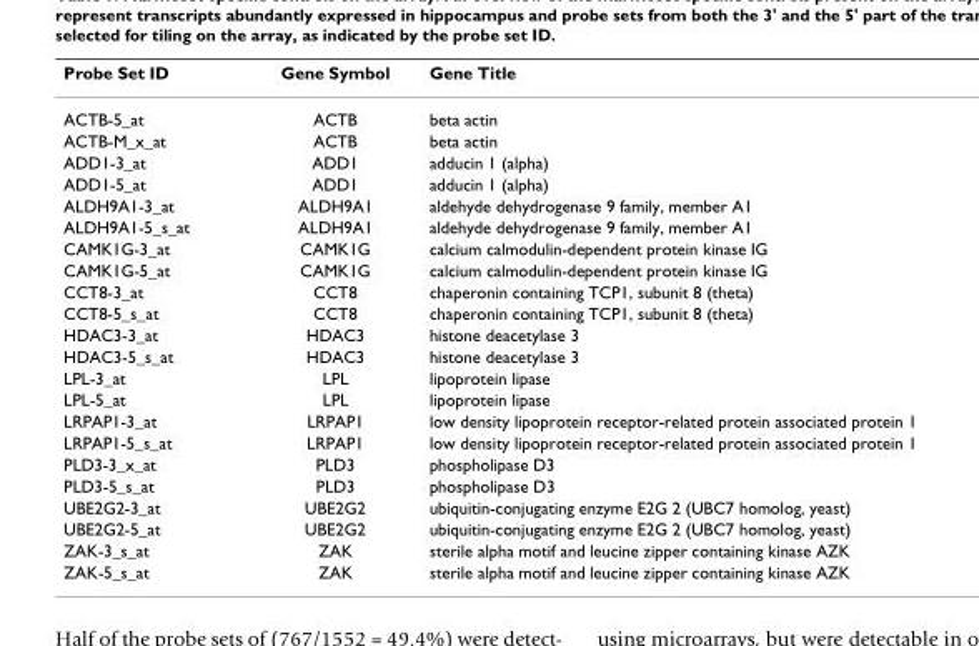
<table><thead><tr><td>Probe Set ID</td><td>Gene Symbol</td><td>Gene Title</td></tr></thead><tbody><tr><td>ACTB-5_at</td><td>ACTB</td><td>beta actin</td></tr><tr><td>ACTB-M_x_at</td><td>ACTB</td><td>beta actin</td></tr><tr><td>ADD1-3_at</td><td>ADD1</td><td>adducin 1 (alpha)</td></tr><tr><td>ADD1-5_at</td><td>ADD1</td><td>adducin 1 (alpha)</td></tr><tr><td>ALDH9A1-3_at</td><td>ALDH9A1</td><td>aldehyde dehydrogenase 9 family, member A1</td></tr><tr><td>ALDH9A1-5_s_at</td><td>ALDH9A1</td><td>aldehyde dehydrogenase 9 family, member A1</td></tr><tr><td>CAMK1G-3_at</td><td>CAMK1G</td><td>calcium calmodulin-dependent protein kinase IG</td></tr><tr><td>CAMK1G-5_at</td><td>CAMK1G</td><td>calcium calmodulin-dependent protein kinase IG</td></tr><tr><td>CCT8-3_at</td><td>CCT8</td><td>chaperonin containing TCP1, subunit 8 (theta)</td></tr><tr><td>CCT8-5_s_at</td><td>CCT8</td><td>chaperonin containing TCP1, subunit 8 (theta)</td></tr><tr><td>HDAC3-3_at</td><td>HDAC3</td><td>histone deacetylase 3</td></tr><tr><td>HDAC3-5_s_at</td><td>HDAC3</td><td>histone deacetylase 3</td></tr><tr><td>LPL-3_at</td><td>LPL</td><td>lipoprotein lipase</td></tr><tr><td>LPL-5_at</td><td>LPL</td><td>lipoprotein lipase</td></tr><tr><td>LRPAP1-3_at</td><td>LRPAP1</td><td>low density lipoprotein receptor-related protein associated protein 1</td></tr><tr><td>LRPAP1-5_s_at</td><td>LRPAP1</td><td>low density lipoprotein receptor-related protein associated protein 1</td></tr><tr><td>PLD3-3_x_at</td><td>PLD3</td><td>phospholipase D3</td></tr><tr><td>PLD3-5_s_at</td><td>PLD3</td><td>phospholipase D3</td></tr><tr><td>UBE2G2-3_at</td><td>UBE2G2</td><td>ubiquitin-conjugating enzyme E2G 2 (UBC7 homolog, yeast)</td></tr><tr><td>UBE2G2-5_at</td><td>UBE2G2</td><td>ubiquitin-conjugating enzyme E2G 2 (UBC7 homolog, yeast)</td></tr><tr><td>ZAK-3_s_at</td><td>ZAK</td><td>sterile alpha motif and leucine zipper containing kinase AZK</td></tr><tr><td>ZAK-5_s_at</td><td>ZAK</td><td>sterile alpha motif and leucine zipper containing kinase AZK</td></tr></tbody></table>